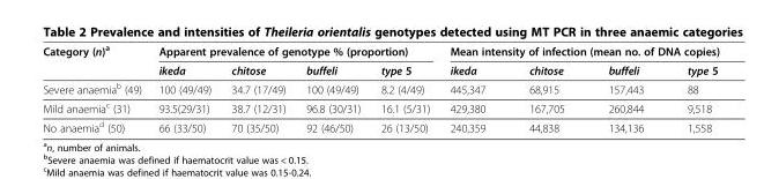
<table><thead><tr><td rowspan="2">Category (n)<sup>a</sup></td><td colspan="4">Apparent prevalence of genotype % (proportion)</td><td colspan="4">Mean intensity of infection (mean no. of DNA copies)</td></tr><tr><td>ikeda</td><td>chitose</td><td>buffeli</td><td>type 5</td><td>ikeda</td><td>chitose</td><td>buffeli</td><td>type 5</td></tr></thead><tbody><tr><td>Severe anaemia<sup>b</sup> (49)</td><td>100 (49/49)</td><td>34.7 (17/49)</td><td>100 (49/49)</td><td>8.2 (4/49)</td><td>445,347</td><td>68,915</td><td>157,443</td><td>88</td></tr><tr><td>Mild anaemia<sup>c</sup> (31)</td><td>93.5(29/31)</td><td>38.7 (12/31)</td><td>96.8 (30/31)</td><td>16.1 (5/31)</td><td>429,380</td><td>167,705</td><td>260,844</td><td>9,518</td></tr><tr><td>No anaemia<sup>d</sup> (50)</td><td>66 (33/50)</td><td>70 (35/50)</td><td>92 (46/50)</td><td>26 (13/50)</td><td>240,359</td><td>44,838</td><td>134,136</td><td>1,558</td></tr></tbody></table>